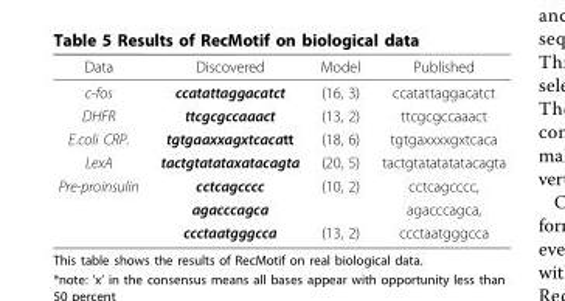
<table><thead><tr><td>Data</td><td>Discovered</td><td>Model</td><td>Published</td></tr></thead><tbody><tr><td>c-fos</td><td>ccatattaggacatct</td><td>(16, 3)</td><td>ccatattaggacatct</td></tr><tr><td>DHFR</td><td>ttcgcgccaaact</td><td>(13, 2)</td><td>ttcgcgccaaact</td></tr><tr><td>E.coli CRP.</td><td>tgtgaaxxagxtcacatt</td><td>(18, 6)</td><td>tgtgaxxxxgxtcaca</td></tr><tr><td>LexA</td><td>tactgtatataxatacagta</td><td>(20, 5)</td><td>tactgtatatatatacagta</td></tr><tr><td rowspan="3">Pre-proinsulin</td><td>cctcagcccc</td><td rowspan="2">(10, 2)</td><td>cctcagcccc,</td></tr><tr><td>agacccagca</td><td>agacccagca,</td></tr><tr><td>ccctaatgggcca</td><td>(13, 2)</td><td>ccctaatgggcca</td></tr></tbody></table>